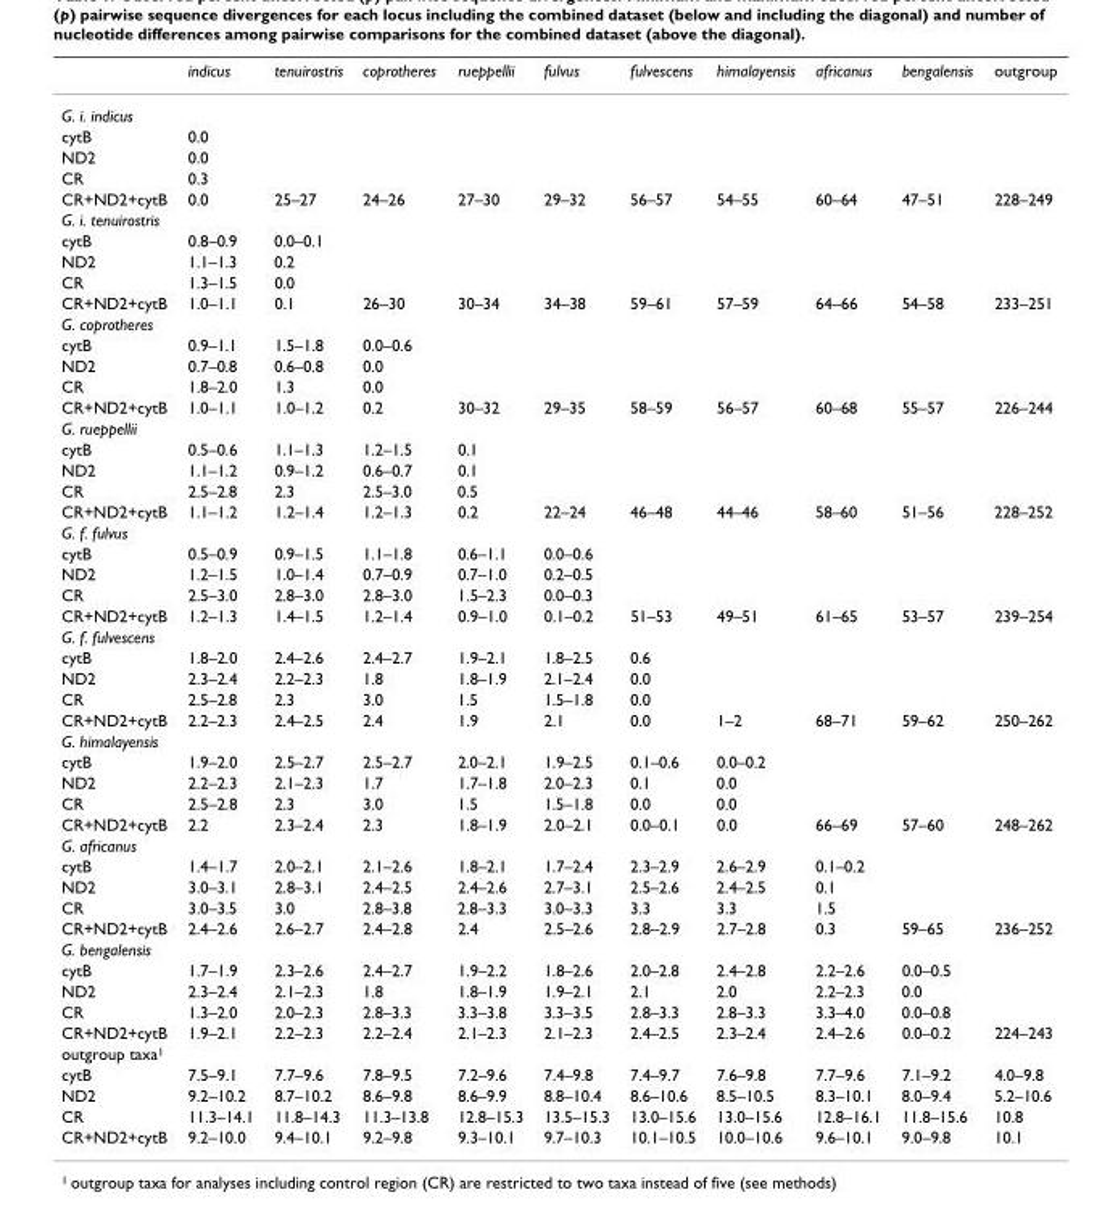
<table><thead><tr><td></td><td>indicus</td><td>tenuirostris</td><td>coprotheres</td><td>rueppellii</td><td>fulvus</td><td>fulvescens</td><td>himalayensis</td><td>africanus</td><td>bengalensis</td><td>outgroup</td></tr></thead><tbody><tr><td colspan="11">G. i. indicus</td></tr><tr><td>cytB</td><td>0.0</td><td></td><td></td><td></td><td></td><td></td><td></td><td></td><td></td><td></td></tr><tr><td>ND2</td><td>0.0</td><td></td><td></td><td></td><td></td><td></td><td></td><td></td><td></td><td></td></tr><tr><td>CR</td><td>0.3</td><td></td><td></td><td></td><td></td><td></td><td></td><td></td><td></td><td></td></tr><tr><td>CR+ND2+cytB</td><td>0.0</td><td>25–27</td><td>24–26</td><td>27–30</td><td>29–32</td><td>56–57</td><td>54–55</td><td>60–64</td><td>47–51</td><td>228–249</td></tr><tr><td colspan="11">G. i. tenuirostris</td></tr><tr><td>cytB</td><td>0.8–0.9</td><td>0.0–0.1</td><td></td><td></td><td></td><td></td><td></td><td></td><td></td><td></td></tr><tr><td>ND2</td><td>1.1–1.3</td><td>0.2</td><td></td><td></td><td></td><td></td><td></td><td></td><td></td><td></td></tr><tr><td>CR</td><td>1.3–1.5</td><td>0.0</td><td></td><td></td><td></td><td></td><td></td><td></td><td></td><td></td></tr><tr><td>CR+ND2+cytB</td><td>1.0–1.1</td><td>0.1</td><td>26–30</td><td>30–34</td><td>34–38</td><td>59–61</td><td>57–59</td><td>64–66</td><td>54–58</td><td>233–251</td></tr><tr><td colspan="11">G. coprotheres</td></tr><tr><td>cytB</td><td>0.9–1.1</td><td>1.5–1.8</td><td>0.0–0.6</td><td></td><td></td><td></td><td></td><td></td><td></td><td></td></tr><tr><td>ND2</td><td>0.7–0.8</td><td>0.6–0.8</td><td>0.0</td><td></td><td></td><td></td><td></td><td></td><td></td><td></td></tr><tr><td>CR</td><td>1.8–2.0</td><td>1.3</td><td>0.0</td><td></td><td></td><td></td><td></td><td></td><td></td><td></td></tr><tr><td>CR+ND2+cytB</td><td>1.0–1.1</td><td>1.0–1.2</td><td>0.2</td><td>30–32</td><td>29–35</td><td>58–59</td><td>56–57</td><td>60–68</td><td>55–57</td><td>226–244</td></tr><tr><td colspan="11">G. rueppellii</td></tr><tr><td>cytB</td><td>0.5–0.6</td><td>1.1–1.3</td><td>1.2–1.5</td><td>0.1</td><td></td><td></td><td></td><td></td><td></td><td></td></tr><tr><td>ND2</td><td>1.1–1.2</td><td>0.9–1.2</td><td>0.6–0.7</td><td>0.1</td><td></td><td></td><td></td><td></td><td></td><td></td></tr><tr><td>CR</td><td>2.5–2.8</td><td>2.3</td><td>2.5–3.0</td><td>0.5</td><td></td><td></td><td></td><td></td><td></td><td></td></tr><tr><td>CR+ND2+cytB</td><td>1.1–1.2</td><td>1.2–1.4</td><td>1.2–1.3</td><td>0.2</td><td>22–24</td><td>46–48</td><td>44–46</td><td>58–60</td><td>51–56</td><td>228–252</td></tr><tr><td colspan="11">G. f. fulvus</td></tr><tr><td>cytB</td><td>0.5–0.9</td><td>0.9–1.5</td><td>1.1–1.8</td><td>0.6–1.1</td><td>0.0–0.6</td><td></td><td></td><td></td><td></td><td></td></tr><tr><td>ND2</td><td>1.2–1.5</td><td>1.0–1.4</td><td>0.7–0.9</td><td>0.7–1.0</td><td>0.2–0.5</td><td></td><td></td><td></td><td></td><td></td></tr><tr><td>CR</td><td>2.5–3.0</td><td>2.8–3.0</td><td>2.8–3.0</td><td>1.5–2.3</td><td>0.0–0.3</td><td></td><td></td><td></td><td></td><td></td></tr><tr><td>CR+ND2+cytB</td><td>1.2–1.3</td><td>1.4–1.5</td><td>1.2–1.4</td><td>0.9–1.0</td><td>0.1–0.2</td><td>51–53</td><td>49–51</td><td>61–65</td><td>53–57</td><td>239–254</td></tr><tr><td colspan="11">G. f. fulvescens</td></tr><tr><td>cytB</td><td>1.8–2.0</td><td>2.4–2.6</td><td>2.4–2.7</td><td>1.9–2.1</td><td>1.8–2.5</td><td>0.6</td><td></td><td></td><td></td><td></td></tr><tr><td>ND2</td><td>2.3–2.4</td><td>2.2–2.3</td><td>1.8</td><td>1.8–1.9</td><td>2.1–2.4</td><td>0.0</td><td></td><td></td><td></td><td></td></tr><tr><td>CR</td><td>2.5–2.8</td><td>2.3</td><td>3.0</td><td>1.5</td><td>1.5–1.8</td><td>0.0</td><td></td><td></td><td></td><td></td></tr><tr><td>CR+ND2+cytB</td><td>2.2–2.3</td><td>2.4–2.5</td><td>2.4</td><td>1.9</td><td>2.1</td><td>0.0</td><td>1–2</td><td>68–71</td><td>59–62</td><td>250–262</td></tr><tr><td colspan="11">G. himalayensis</td></tr><tr><td>cytB</td><td>1.9–2.0</td><td>2.5–2.7</td><td>2.5–2.7</td><td>2.0–2.1</td><td>1.9–2.5</td><td>0.1–0.6</td><td>0.0–0.2</td><td></td><td></td><td></td></tr><tr><td>ND2</td><td>2.2–2.3</td><td>2.1–2.3</td><td>1.7</td><td>1.7–1.8</td><td>2.0–2.3</td><td>0.1</td><td>0.0</td><td></td><td></td><td></td></tr><tr><td>CR</td><td>2.5–2.8</td><td>2.3</td><td>3.0</td><td>1.5</td><td>1.5–1.8</td><td>0.0</td><td>0.0</td><td></td><td></td><td></td></tr><tr><td>CR+ND2+cytB</td><td>2.2</td><td>2.3–2.4</td><td>2.3</td><td>1.8–1.9</td><td>2.0–2.1</td><td>0.0–0.1</td><td>0.0</td><td>66–69</td><td>57–60</td><td>248–262</td></tr><tr><td colspan="11">G. africanus</td></tr><tr><td>cytB</td><td>1.4–1.7</td><td>2.0–2.1</td><td>2.1–2.6</td><td>1.8–2.1</td><td>1.7–2.4</td><td>2.3–2.9</td><td>2.6–2.9</td><td>0.1–0.2</td><td></td><td></td></tr><tr><td>ND2</td><td>3.0–3.1</td><td>2.8–3.1</td><td>2.4–2.5</td><td>2.4–2.6</td><td>2.7–3.1</td><td>2.5–2.6</td><td>2.4–2.5</td><td>0.1</td><td></td><td></td></tr><tr><td>CR</td><td>3.0–3.5</td><td>3.0</td><td>2.8–3.8</td><td>2.8–3.3</td><td>3.0–3.3</td><td>3.3</td><td>3.3</td><td>1.5</td><td></td><td></td></tr><tr><td>CR+ND2+cytB</td><td>2.4–2.6</td><td>2.6–2.7</td><td>2.4–2.8</td><td>2.4</td><td>2.5–2.6</td><td>2.8–2.9</td><td>2.7–2.8</td><td>0.3</td><td>59–65</td><td>236–252</td></tr><tr><td colspan="11">G. bengalensis</td></tr><tr><td>cytB</td><td>1.7–1.9</td><td>2.3–2.6</td><td>2.4–2.7</td><td>1.9–2.2</td><td>1.8–2.6</td><td>2.0–2.8</td><td>2.4–2.8</td><td>2.2–2.6</td><td>0.0–0.5</td><td></td></tr><tr><td>ND2</td><td>2.3–2.4</td><td>2.1–2.3</td><td>1.8</td><td>1.8–1.9</td><td>1.9–2.1</td><td>2.1</td><td>2.0</td><td>2.2–2.3</td><td>0.0</td><td></td></tr><tr><td>CR</td><td>1.3–2.0</td><td>2.0–2.3</td><td>2.8–3.3</td><td>3.3–3.8</td><td>3.3–3.5</td><td>2.8–3.3</td><td>2.8–3.3</td><td>3.3–4.0</td><td>0.0–0.8</td><td></td></tr><tr><td>CR+ND2+cytB</td><td>1.9–2.1</td><td>2.2–2.3</td><td>2.2–2.4</td><td>2.1–2.3</td><td>2.1–2.3</td><td>2.4–2.5</td><td>2.3–2.4</td><td>2.4–2.6</td><td>0.0–0.2</td><td>224–243</td></tr><tr><td colspan="11">outgroup taxa<sup>1</sup></td></tr><tr><td>cytB</td><td>7.5–9.1</td><td>7.7–9.6</td><td>7.8–9.5</td><td>7.2–9.6</td><td>7.4–9.8</td><td>7.4–9.7</td><td>7.6–9.8</td><td>7.7–9.6</td><td>7.1–9.2</td><td>4.0–9.8</td></tr><tr><td>ND2</td><td>9.2–10.2</td><td>8.7–10.2</td><td>8.6–9.8</td><td>8.6–9.9</td><td>8.8–10.4</td><td>8.6–10.6</td><td>8.5–10.5</td><td>8.3–10.1</td><td>8.0–9.4</td><td>5.2–10.6</td></tr><tr><td>CR</td><td>11.3–14.1</td><td>11.8–14.3</td><td>11.3–13.8</td><td>12.8–15.3</td><td>13.5–15.3</td><td>13.0–15.6</td><td>13.0–15.6</td><td>12.8–16.1</td><td>11.8–15.6</td><td>10.8</td></tr><tr><td>CR+ND2+cytB</td><td>9.2–10.0</td><td>9.4–10.1</td><td>9.2–9.8</td><td>9.3–10.1</td><td>9.7–10.3</td><td>10.1–10.5</td><td>10.0–10.6</td><td>9.6–10.1</td><td>9.0–9.8</td><td>10.1</td></tr></tbody></table>